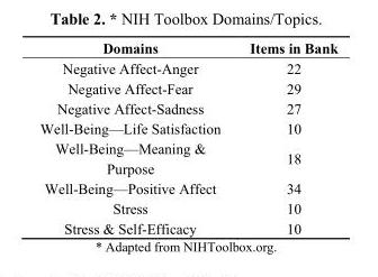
<table><thead><tr><td>Domains</td><td>Items in Bank</td></tr></thead><tbody><tr><td>Negative Affect-Anger</td><td>22</td></tr><tr><td>Negative Affect-Fear</td><td>29</td></tr><tr><td>Negative Affect-Sadness</td><td>27</td></tr><tr><td>Well-Being—Life Satisfaction</td><td>10</td></tr><tr><td>Well-Being—Meaning &amp; Purpose</td><td>18</td></tr><tr><td>Well-Being—Positive Affect</td><td>34</td></tr><tr><td>Stress</td><td>10</td></tr><tr><td>Stress &amp; Self-Efficacy</td><td>10</td></tr></tbody></table>